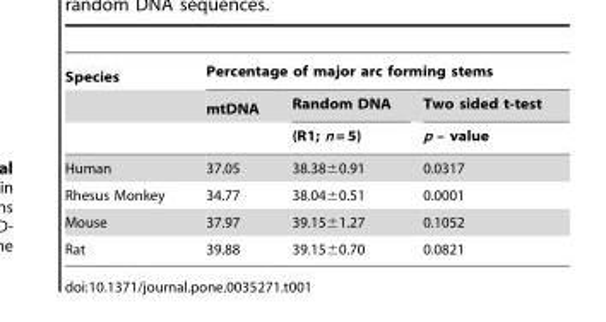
<table><thead><tr><td rowspan="3">Species</td><td colspan="3">Percentage of major arc forming stems</td></tr><tr><td rowspan="2">mtDNA</td><td rowspan="2">Random DNA (R1; n = 5)</td><td rowspan="2">Two sided t-test p – value</td></tr><tr></tr></thead><tbody><tr><td>Human</td><td>37.05</td><td>38.38±0.91</td><td>0.0317</td></tr><tr><td>Rhesus Monkey</td><td>34.77</td><td>38.04±0.51</td><td>0.0001</td></tr><tr><td>Mouse</td><td>37.97</td><td>39.15±1.27</td><td>0.1052</td></tr><tr><td>Rat</td><td>39.88</td><td>39.15±0.70</td><td>0.0821</td></tr></tbody></table>